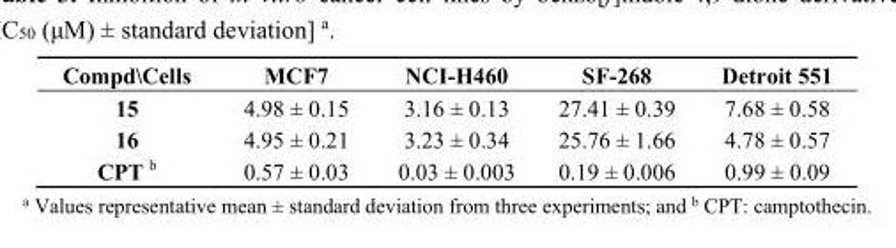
<table><thead><tr><td>Compd\Cells</td><td>MCF7</td><td>NCI-H460</td><td>SF-268</td><td>Detroit 551</td></tr></thead><tbody><tr><td>15</td><td>4.98 ± 0.15</td><td>3.16 ± 0.13</td><td>27.41 ± 0.39</td><td>7.68 ± 0.58</td></tr><tr><td>16</td><td>4.95 ± 0.21</td><td>3.23 ± 0.34</td><td>25.76 ± 1.66</td><td>4.78 ± 0.57</td></tr><tr><td>CPT <sup>b</sup></td><td>0.57 ± 0.03</td><td>0.03 ± 0.003</td><td>0.19 ± 0.006</td><td>0.99 ± 0.09</td></tr></tbody></table>